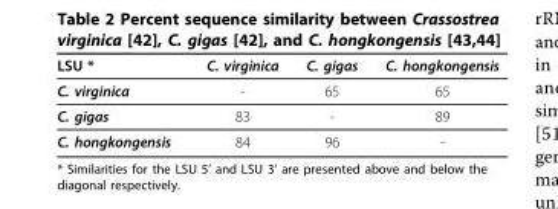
<table><thead><tr><td>LSU *</td><td>C. virginica</td><td>C. gigas</td><td>C. hongkongensis</td></tr></thead><tbody><tr><td>C. virginica</td><td>-</td><td>65</td><td>65</td></tr><tr><td>C. gigas</td><td>83</td><td>-</td><td>89</td></tr><tr><td>C. hongkongensis</td><td>84</td><td>96</td><td>-</td></tr></tbody></table>